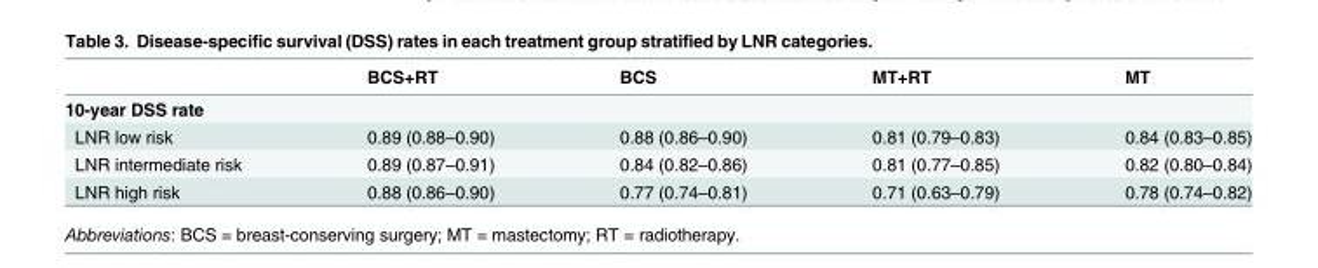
<table><thead><tr><td></td><td>BCS+RT</td><td>BCS</td><td>MT+RT</td><td>MT</td></tr></thead><tbody><tr><td colspan="5">10-year DSS rate</td></tr><tr><td>LNR low risk</td><td>0.89 (0.88–0.90)</td><td>0.88 (0.86–0.90)</td><td>0.81 (0.79–0.83)</td><td>0.84 (0.83–0.85)</td></tr><tr><td>LNR intermediate risk</td><td>0.89 (0.87–0.91)</td><td>0.84 (0.82–0.86)</td><td>0.81 (0.77–0.85)</td><td>0.82 (0.80–0.84)</td></tr><tr><td>LNR high risk</td><td>0.88 (0.86–0.90)</td><td>0.77 (0.74–0.81)</td><td>0.71 (0.63–0.79)</td><td>0.78 (0.74–0.82)</td></tr></tbody></table>